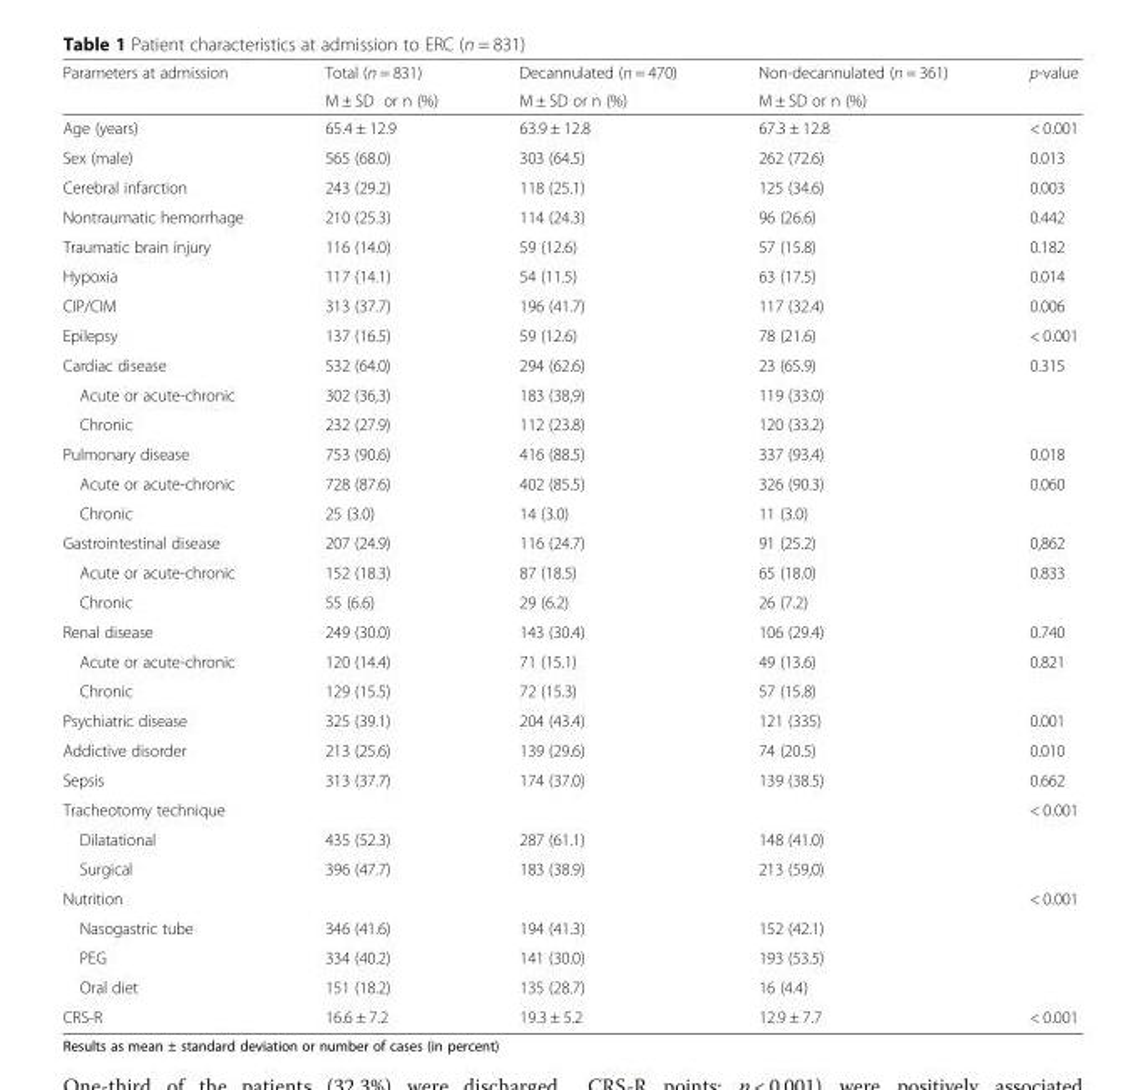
<table><thead><tr><td rowspan="2">Parameters at admission</td><td rowspan="2">Total (n = 831) M ± SD or n (%)</td><td rowspan="2">Decannulated (n = 470) M ± SD or n (%)</td><td rowspan="2">Non-decannulated (n = 361) M ± SD or n (%)</td><td rowspan="2">p-value</td></tr><tr></tr></thead><tbody><tr><td>Age (years)</td><td>65.4 ± 12.9</td><td>63.9 ± 12.8</td><td>67.3 ± 12.8</td><td>&lt; 0.001</td></tr><tr><td>Sex (male)</td><td>565 (68.0)</td><td>303 (64.5)</td><td>262 (72.6)</td><td>0.013</td></tr><tr><td>Cerebral infarction</td><td>243 (29.2)</td><td>118 (25.1)</td><td>125 (34.6)</td><td>0.003</td></tr><tr><td>Nontraumatic hemorrhage</td><td>210 (25.3)</td><td>114 (24.3)</td><td>96 (26.6)</td><td>0.442</td></tr><tr><td>Traumatic brain injury</td><td>116 (14.0)</td><td>59 (12.6)</td><td>57 (15.8)</td><td>0.182</td></tr><tr><td>Hypoxia</td><td>117 (14.1)</td><td>54 (11.5)</td><td>63 (17.5)</td><td>0.014</td></tr><tr><td>CIP/CIM</td><td>313 (37.7)</td><td>196 (41.7)</td><td>117 (32.4)</td><td>0.006</td></tr><tr><td>Epilepsy</td><td>137 (16.5)</td><td>59 (12.6)</td><td>78 (21.6)</td><td>&lt; 0.001</td></tr><tr><td>Cardiac disease</td><td>532 (64.0)</td><td>294 (62.6)</td><td>23 (65.9)</td><td>0.315</td></tr><tr><td>Acute or acute-chronic</td><td>302 (36,3)</td><td>183 (38,9)</td><td>119 (33.0)</td><td></td></tr><tr><td>Chronic</td><td>232 (27.9)</td><td>112 (23.8)</td><td>120 (33.2)</td><td></td></tr><tr><td>Pulmonary disease</td><td>753 (90.6)</td><td>416 (88.5)</td><td>337 (93.4)</td><td>0.018</td></tr><tr><td>Acute or acute-chronic</td><td>728 (87.6)</td><td>402 (85.5)</td><td>326 (90.3)</td><td rowspan="2">0.060</td></tr><tr><td>Chronic</td><td>25 (3.0)</td><td>14 (3.0)</td><td>11 (3.0)</td></tr><tr><td>Gastrointestinal disease</td><td>207 (24.9)</td><td>116 (24.7)</td><td>91 (25.2)</td><td>0,862</td></tr><tr><td>Acute or acute-chronic</td><td>152 (18.3)</td><td>87 (18.5)</td><td>65 (18.0)</td><td rowspan="2">0.833</td></tr><tr><td>Chronic</td><td>55 (6.6)</td><td>29 (6.2)</td><td>26 (7.2)</td></tr><tr><td>Renal disease</td><td>249 (30.0)</td><td>143 (30.4)</td><td>106 (29.4)</td><td>0.740</td></tr><tr><td>Acute or acute-chronic</td><td>120 (14.4)</td><td>71 (15.1)</td><td>49 (13.6)</td><td rowspan="2">0.821</td></tr><tr><td>Chronic</td><td>129 (15.5)</td><td>72 (15.3)</td><td>57 (15.8)</td></tr><tr><td>Psychiatric disease</td><td>325 (39.1)</td><td>204 (43.4)</td><td>121 (335)</td><td>0.001</td></tr><tr><td>Addictive disorder</td><td>213 (25.6)</td><td>139 (29.6)</td><td>74 (20.5)</td><td>0.010</td></tr><tr><td>Sepsis</td><td>313 (37.7)</td><td>174 (37.0)</td><td>139 (38.5)</td><td>0.662</td></tr><tr><td colspan="4">Tracheotomy technique</td><td>&lt; 0.001</td></tr><tr><td>Dilatational</td><td>435 (52.3)</td><td>287 (61.1)</td><td>148 (41.0)</td><td rowspan="2"></td></tr><tr><td>Surgical</td><td>396 (47.7)</td><td>183 (38.9)</td><td>213 (59,0)</td></tr><tr><td colspan="4">Nutrition</td><td>&lt; 0.001</td></tr><tr><td>Nasogastric tube</td><td>346 (41.6)</td><td>194 (41.3)</td><td>152 (42.1)</td><td rowspan="3"></td></tr><tr><td>PEG</td><td>334 (40.2)</td><td>141 (30.0)</td><td>193 (53.5)</td></tr><tr><td>Oral diet</td><td>151 (18.2)</td><td>135 (28.7)</td><td>16 (4.4)</td></tr><tr><td>CRS-R</td><td>16.6 ± 7.2</td><td>19.3 ± 5.2</td><td>12.9 ± 7.7</td><td>&lt; 0.001</td></tr></tbody></table>